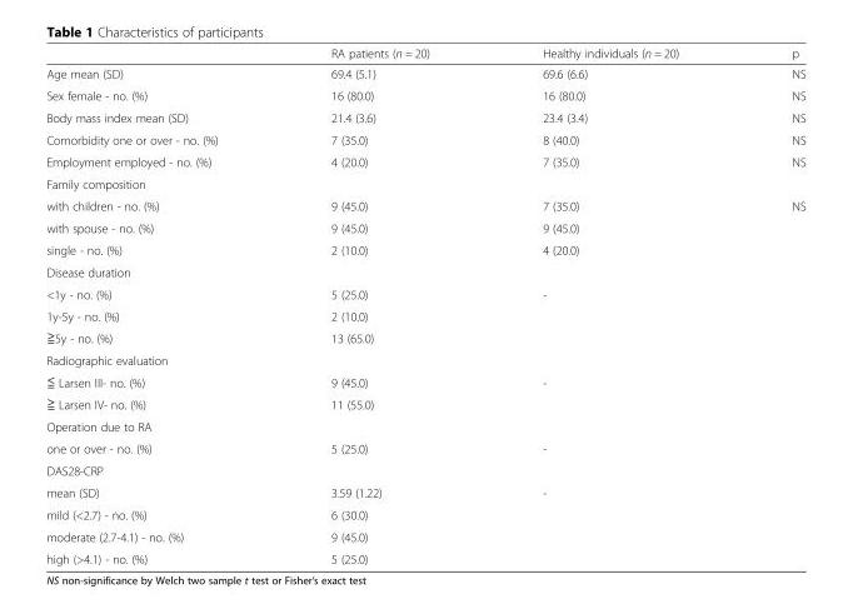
<table><thead><tr><td></td><td>RA patients (n = 20)</td><td>Healthy individuals (n = 20)</td><td>p</td></tr></thead><tbody><tr><td>Age mean (SD)</td><td>69.4 (5.1)</td><td>69.6 (6.6)</td><td>NS</td></tr><tr><td>Sex female - no. (%)</td><td>16 (80.0)</td><td>16 (80.0)</td><td>NS</td></tr><tr><td>Body mass index mean (SD)</td><td>21.4 (3.6)</td><td>23.4 (3.4)</td><td>NS</td></tr><tr><td>Comorbidity one or over - no. (%)</td><td>7 (35.0)</td><td>8 (40.0)</td><td>NS</td></tr><tr><td>Employment employed - no. (%)</td><td>4 (20.0)</td><td>7 (35.0)</td><td>NS</td></tr><tr><td colspan="4">Family composition</td></tr><tr><td>with children - no. (%)</td><td>9 (45.0)</td><td>7 (35.0)</td><td>NS</td></tr><tr><td>with spouse - no. (%)</td><td>9 (45.0)</td><td>9 (45.0)</td><td></td></tr><tr><td>single - no. (%)</td><td>2 (10.0)</td><td>4 (20.0)</td><td></td></tr><tr><td colspan="4">Disease duration</td></tr><tr><td>&lt;1y - no. (%)</td><td>5 (25.0)</td><td>-</td><td></td></tr><tr><td>1y-5y - no. (%)</td><td>2 (10.0)</td><td></td><td></td></tr><tr><td>≧5y - no. (%)</td><td>13 (65.0)</td><td></td><td></td></tr><tr><td colspan="4">Radiographic evaluation</td></tr><tr><td>≦ Larsen III- no. (%)</td><td>9 (45.0)</td><td>-</td><td></td></tr><tr><td>≧ Larsen IV- no. (%)</td><td>11 (55.0)</td><td></td><td></td></tr><tr><td colspan="4">Operation due to RA</td></tr><tr><td>one or over - no. (%)</td><td>5 (25.0)</td><td>-</td><td></td></tr><tr><td colspan="4">DAS28-CRP</td></tr><tr><td>mean (SD)</td><td>3.59 (1.22)</td><td>-</td><td></td></tr><tr><td>mild (&lt;2.7) - no. (%)</td><td>6 (30.0)</td><td></td><td></td></tr><tr><td>moderate (2.7-4.1) - no. (%)</td><td>9 (45.0)</td><td></td><td></td></tr><tr><td>high (&gt;4.1) - no. (%)</td><td>5 (25.0)</td><td></td><td></td></tr></tbody></table>